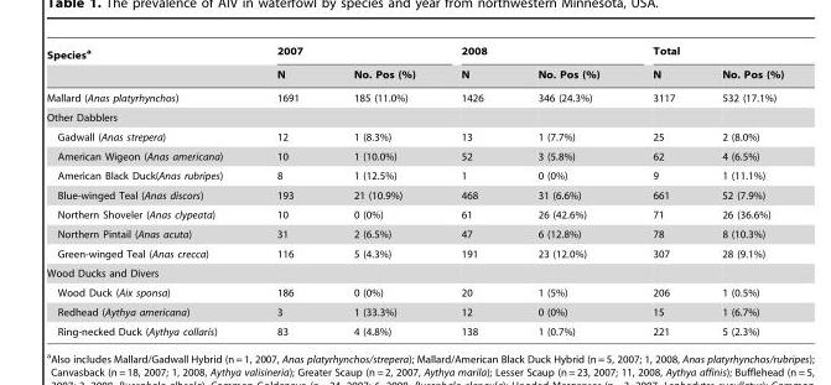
<table><thead><tr><td rowspan="2">Species<sup>a</sup></td><td colspan="2">2007</td><td colspan="2">2008</td><td colspan="2">Total</td></tr><tr><td>N</td><td>No. Pos (%)</td><td>N</td><td>No. Pos (%)</td><td>N</td><td>No. Pos (%)</td></tr></thead><tbody><tr><td>Mallard (Anas platyrhynchos)</td><td>1691</td><td>185 (11.0%)</td><td>1426</td><td>346 (24.3%)</td><td>3117</td><td>532 (17.1%)</td></tr><tr><td colspan="7">Other Dabblers</td></tr><tr><td>Gadwall (Anas strepera)</td><td>12</td><td>1 (8.3%)</td><td>13</td><td>1 (7.7%)</td><td>25</td><td>2 (8.0%)</td></tr><tr><td>American Wigeon (Anas americana)</td><td>10</td><td>1 (10.0%)</td><td>52</td><td>3 (5.8%)</td><td>62</td><td>4 (6.5%)</td></tr><tr><td>American Black Duck(Anas rubripes)</td><td>8</td><td>1 (12.5%)</td><td>1</td><td>0 (0%)</td><td>9</td><td>1 (11.1%)</td></tr><tr><td>Blue-winged Teal (Anas discors)</td><td>193</td><td>21 (10.9%)</td><td>468</td><td>31 (6.6%)</td><td>661</td><td>52 (7.9%)</td></tr><tr><td>Northern Shoveler (Anas clypeata)</td><td>10</td><td>0 (0%)</td><td>61</td><td>26 (42.6%)</td><td>71</td><td>26 (36.6%)</td></tr><tr><td>Northern Pintail (Anas acuta)</td><td>31</td><td>2 (6.5%)</td><td>47</td><td>6 (12.8%)</td><td>78</td><td>8 (10.3%)</td></tr><tr><td>Green-winged Teal (Anas crecca)</td><td>116</td><td>5 (4.3%)</td><td>191</td><td>23 (12.0%)</td><td>307</td><td>28 (9.1%)</td></tr><tr><td colspan="7">Wood Ducks and Divers</td></tr><tr><td>Wood Duck (Aix sponsa)</td><td>186</td><td>0 (0%)</td><td>20</td><td>1 (5%)</td><td>206</td><td>1 (0.5%)</td></tr><tr><td>Redhead (Aythya americana)</td><td>3</td><td>1 (33.3%)</td><td>12</td><td>0 (0%)</td><td>15</td><td>1 (6.7%)</td></tr><tr><td>Ring-necked Duck (Aythya collaris)</td><td>83</td><td>4 (4.8%)</td><td>138</td><td>1 (0.7%)</td><td>221</td><td>5 (2.3%)</td></tr></tbody></table>